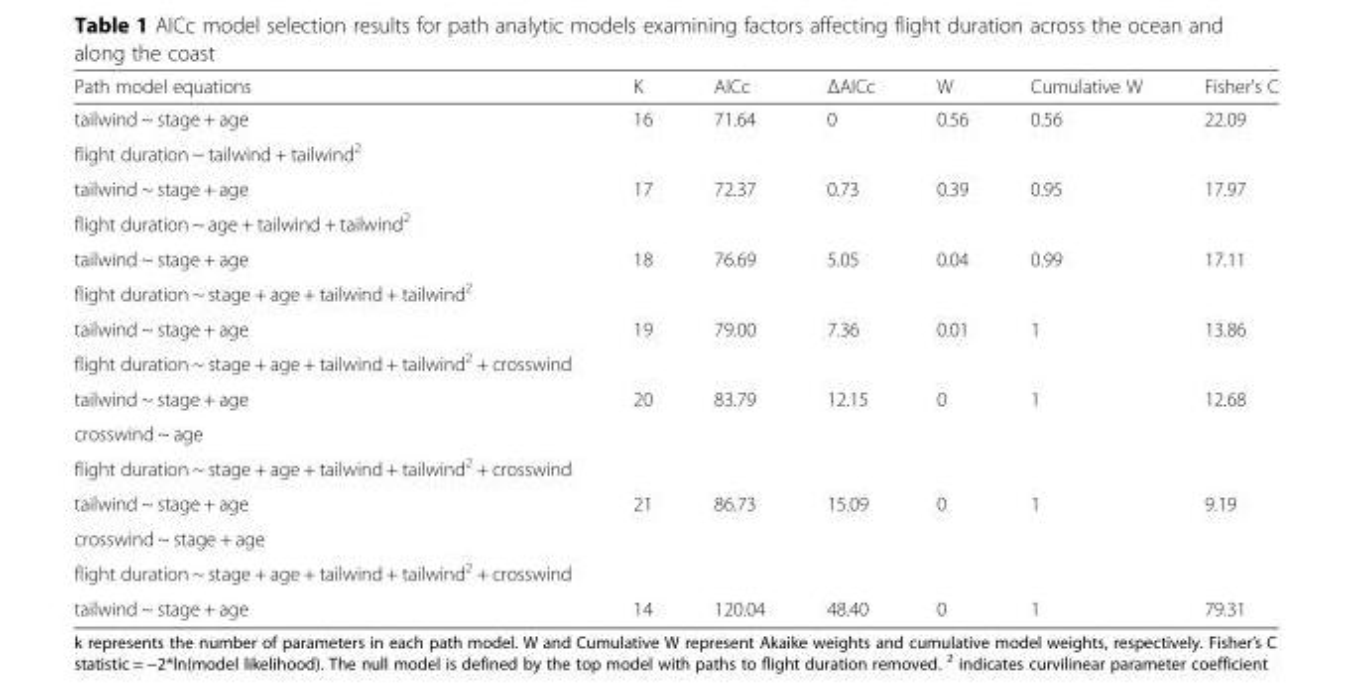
<table><thead><tr><td>Path model equations</td><td>K</td><td>AICc</td><td>ΔAICc</td><td>W</td><td>Cumulative W</td><td>Fisher’s C</td></tr></thead><tbody><tr><td>tailwind ~ stage + age</td><td rowspan="2">16</td><td rowspan="2">71.64</td><td rowspan="2">0</td><td rowspan="2">0.56</td><td rowspan="2">0.56</td><td rowspan="2">22.09</td></tr><tr><td>flight duration ~ tailwind + tailwind<sup>2</sup></td></tr><tr><td>tailwind ~ stage + age</td><td rowspan="2">17</td><td rowspan="2">72.37</td><td rowspan="2">0.73</td><td rowspan="2">0.39</td><td rowspan="2">0.95</td><td rowspan="2">17.97</td></tr><tr><td>flight duration ~ age + tailwind + tailwind<sup>2</sup></td></tr><tr><td>tailwind ~ stage + age</td><td rowspan="2">18</td><td rowspan="2">76.69</td><td rowspan="2">5.05</td><td rowspan="2">0.04</td><td rowspan="2">0.99</td><td rowspan="2">17.11</td></tr><tr><td>flight duration ~ stage + age + tailwind + tailwind<sup>2</sup></td></tr><tr><td>tailwind ~ stage + age</td><td rowspan="2">19</td><td rowspan="2">79.00</td><td rowspan="2">7.36</td><td rowspan="2">0.01</td><td rowspan="2">1</td><td rowspan="2">13.86</td></tr><tr><td>flight duration ~ stage + age + tailwind + tailwind<sup>2</sup> + crosswind</td></tr><tr><td>tailwind ~ stage + age</td><td rowspan="3">20</td><td rowspan="3">83.79</td><td rowspan="3">12.15</td><td rowspan="3">0</td><td rowspan="3">1</td><td rowspan="3">12.68</td></tr><tr><td>crosswind ~ age</td></tr><tr><td>flight duration ~ stage + age + tailwind + tailwind<sup>2</sup> + crosswind</td></tr><tr><td>tailwind ~ stage + age</td><td rowspan="3">21</td><td rowspan="3">86.73</td><td rowspan="3">15.09</td><td rowspan="3">0</td><td rowspan="3">1</td><td rowspan="3">9.19</td></tr><tr><td>crosswind ~ stage + age</td></tr><tr><td>flight duration ~ stage + age + tailwind + tailwind<sup>2</sup> + crosswind</td></tr><tr><td>tailwind ~ stage + age</td><td>14</td><td>120.04</td><td>48.40</td><td>0</td><td>1</td><td>79.31</td></tr></tbody></table>